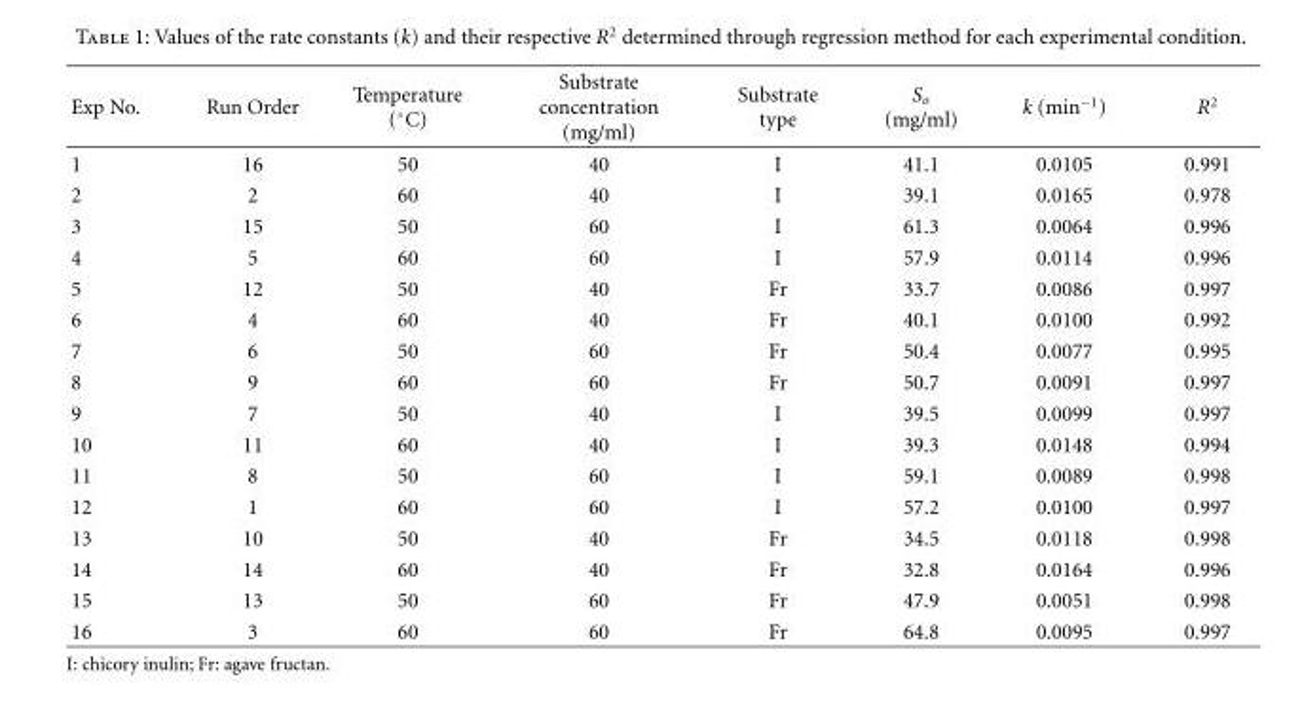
<table><thead><tr><td>Exp No.</td><td>Run Order</td><td>Temperature (◦C)</td><td>Substrate concentration (mg/ml)</td><td>Substrate type</td><td>S<sub>o</sub> (mg/ml)</td><td>k (min<sup>−1</sup>)</td><td>R<sup>2</sup></td></tr></thead><tbody><tr><td>1</td><td>16</td><td>50</td><td>40</td><td>I</td><td>41.1</td><td>0.0105</td><td>0.991</td></tr><tr><td>2</td><td>2</td><td>60</td><td>40</td><td>I</td><td>39.1</td><td>0.0165</td><td>0.978</td></tr><tr><td>3</td><td>15</td><td>50</td><td>60</td><td>I</td><td>61.3</td><td>0.0064</td><td>0.996</td></tr><tr><td>4</td><td>5</td><td>60</td><td>60</td><td>I</td><td>57.9</td><td>0.0114</td><td>0.996</td></tr><tr><td>5</td><td>12</td><td>50</td><td>40</td><td>Fr</td><td>33.7</td><td>0.0086</td><td>0.997</td></tr><tr><td>6</td><td>4</td><td>60</td><td>40</td><td>Fr</td><td>40.1</td><td>0.0100</td><td>0.992</td></tr><tr><td>7</td><td>6</td><td>50</td><td>60</td><td>Fr</td><td>50.4</td><td>0.0077</td><td>0.995</td></tr><tr><td>8</td><td>9</td><td>60</td><td>60</td><td>Fr</td><td>50.7</td><td>0.0091</td><td>0.997</td></tr><tr><td>9</td><td>7</td><td>50</td><td>40</td><td>I</td><td>39.5</td><td>0.0099</td><td>0.997</td></tr><tr><td>10</td><td>11</td><td>60</td><td>40</td><td>I</td><td>39.3</td><td>0.0148</td><td>0.994</td></tr><tr><td>11</td><td>8</td><td>50</td><td>60</td><td>I</td><td>59.1</td><td>0.0089</td><td>0.998</td></tr><tr><td>12</td><td>1</td><td>60</td><td>60</td><td>I</td><td>57.2</td><td>0.0100</td><td>0.997</td></tr><tr><td>13</td><td>10</td><td>50</td><td>40</td><td>Fr</td><td>34.5</td><td>0.0118</td><td>0.998</td></tr><tr><td>14</td><td>14</td><td>60</td><td>40</td><td>Fr</td><td>32.8</td><td>0.0164</td><td>0.996</td></tr><tr><td>15</td><td>13</td><td>50</td><td>60</td><td>Fr</td><td>47.9</td><td>0.0051</td><td>0.998</td></tr><tr><td>16</td><td>3</td><td>60</td><td>60</td><td>Fr</td><td>64.8</td><td>0.0095</td><td>0.997</td></tr></tbody></table>